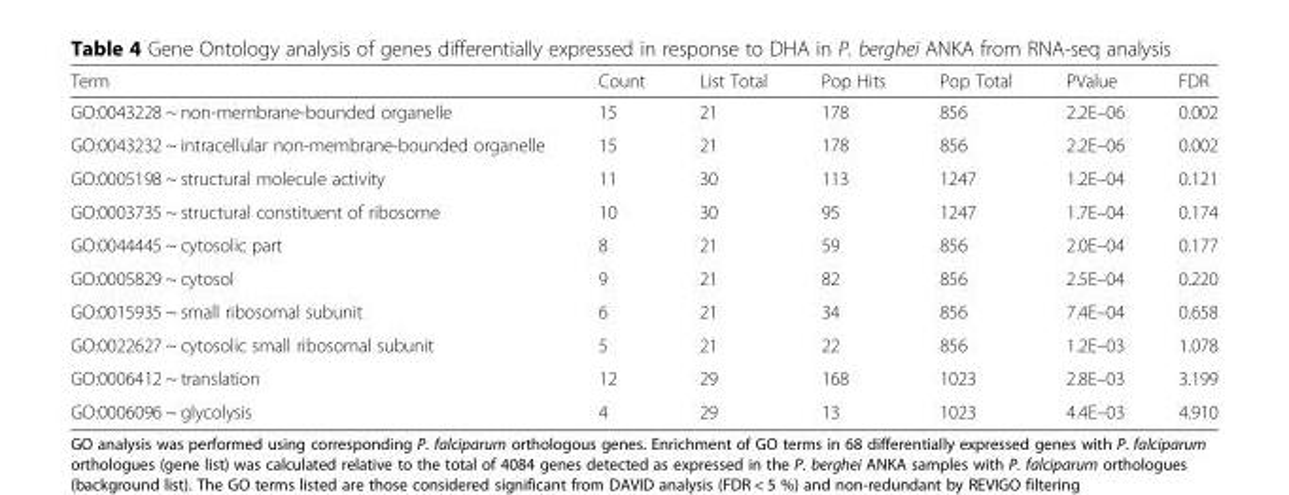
<table><thead><tr><td>Term</td><td>Count</td><td>List Total</td><td>Pop Hits</td><td>Pop Total</td><td>PValue</td><td>FDR</td></tr></thead><tbody><tr><td>GO:0043228 ~ non-membrane-bounded organelle</td><td>15</td><td>21</td><td>178</td><td>856</td><td>2.2E–06</td><td>0.002</td></tr><tr><td>GO:0043232 ~ intracellular non-membrane-bounded organelle</td><td>15</td><td>21</td><td>178</td><td>856</td><td>2.2E–06</td><td>0.002</td></tr><tr><td>GO:0005198 ~ structural molecule activity</td><td>11</td><td>30</td><td>113</td><td>1247</td><td>1.2E–04</td><td>0.121</td></tr><tr><td>GO:0003735 ~ structural constituent of ribosome</td><td>10</td><td>30</td><td>95</td><td>1247</td><td>1.7E–04</td><td>0.174</td></tr><tr><td>GO:0044445 ~ cytosolic part</td><td>8</td><td>21</td><td>59</td><td>856</td><td>2.0E–04</td><td>0.177</td></tr><tr><td>GO:0005829 ~ cytosol</td><td>9</td><td>21</td><td>82</td><td>856</td><td>2.5E–04</td><td>0.220</td></tr><tr><td>GO:0015935 ~ small ribosomal subunit</td><td>6</td><td>21</td><td>34</td><td>856</td><td>7.4E–04</td><td>0.658</td></tr><tr><td>GO:0022627 ~ cytosolic small ribosomal subunit</td><td>5</td><td>21</td><td>22</td><td>856</td><td>1.2E–03</td><td>1.078</td></tr><tr><td>GO:0006412 ~ translation</td><td>12</td><td>29</td><td>168</td><td>1023</td><td>2.8E–03</td><td>3.199</td></tr><tr><td>GO:0006096 ~ glycolysis</td><td>4</td><td>29</td><td>13</td><td>1023</td><td>4.4E–03</td><td>4.910</td></tr></tbody></table>